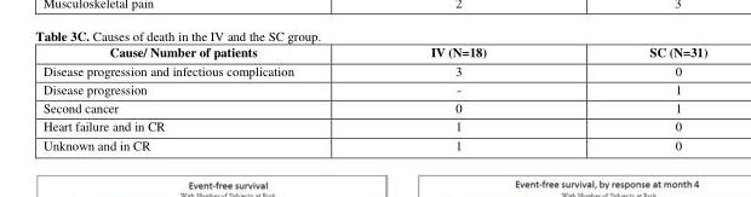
<table><thead><tr><td>Cause/ Number of patients</td><td>IV (N=18)</td><td>SC (N=31)</td></tr></thead><tbody><tr><td>Disease progression and infectious complication</td><td>3</td><td>0</td></tr><tr><td>Disease progression</td><td>-</td><td>1</td></tr><tr><td>Second cancer</td><td>0</td><td>1</td></tr><tr><td>Heart failure and in CR</td><td>1</td><td>0</td></tr><tr><td>Unknown and in CR</td><td>1</td><td>0</td></tr></tbody></table>